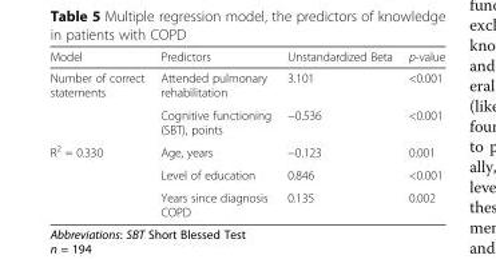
<table><thead><tr><td>Model</td><td>Predictors</td><td>Unstandardized Beta</td><td>p-value</td></tr></thead><tbody><tr><td rowspan="2">Number of correct statements</td><td>Attended pulmonary rehabilitation</td><td>3.101</td><td>&lt;0.001</td></tr><tr><td>Cognitive functioning (SBT), points</td><td>−0.536</td><td>&lt;0.001</td></tr><tr><td rowspan="3">R<sup>2</sup> = 0.330</td><td>Age, years</td><td>−0.123</td><td>0.001</td></tr><tr><td>Level of education</td><td>0.846</td><td>&lt;0.001</td></tr><tr><td>Years since diagnosis COPD</td><td>0.135</td><td>0.002</td></tr></tbody></table>